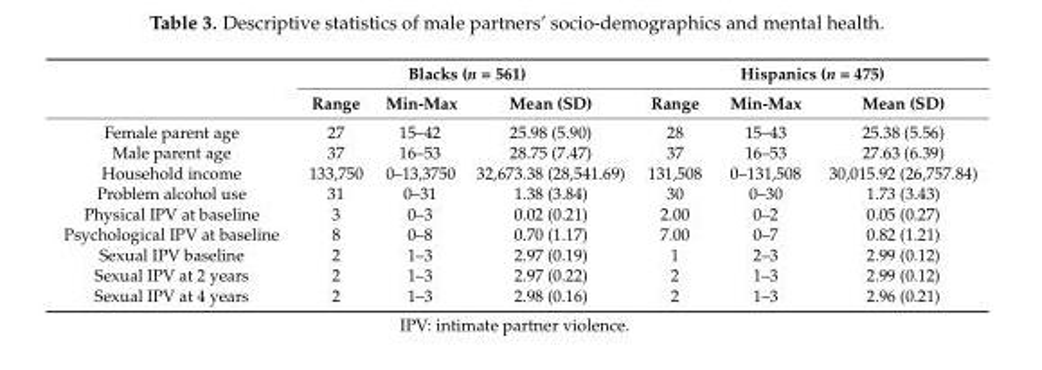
<table><thead><tr><td rowspan="2"></td><td colspan="3">Blacks (n = 561)</td><td colspan="3">Hispanics (n = 475)</td></tr><tr><td>Range</td><td>Min-Max</td><td>Mean (SD)</td><td>Range</td><td>Min-Max</td><td>Mean (SD)</td></tr></thead><tbody><tr><td>Female parent age</td><td>27</td><td>15–42</td><td>25.98 (5.90)</td><td>28</td><td>15–43</td><td>25.38 (5.56)</td></tr><tr><td>Male parent age</td><td>37</td><td>16–53</td><td>28.75 (7.47)</td><td>37</td><td>16–53</td><td>27.63 (6.39)</td></tr><tr><td>Household income</td><td>133,750</td><td>0–13,3750</td><td>32,673.38 (28,541.69)</td><td>131,508</td><td>0–131,508</td><td>30,015.92 (26,757.84)</td></tr><tr><td>Problem alcohol use</td><td>31</td><td>0–31</td><td>1.38 (3.84)</td><td>30</td><td>0–30</td><td>1.73 (3.43)</td></tr><tr><td>Physical IPV at baseline</td><td>3</td><td>0–3</td><td>0.02 (0.21)</td><td>2.00</td><td>0–2</td><td>0.05 (0.27)</td></tr><tr><td>Psychological IPV at baseline</td><td>8</td><td>0–8</td><td>0.70 (1.17)</td><td>7.00</td><td>0–7</td><td>0.82 (1.21)</td></tr><tr><td>Sexual IPV baseline</td><td>2</td><td>1–3</td><td>2.97 (0.19)</td><td>1</td><td>2–3</td><td>2.99 (0.12)</td></tr><tr><td>Sexual IPV at 2 years</td><td>2</td><td>1–3</td><td>2.97 (0.22)</td><td>2</td><td>1–3</td><td>2.99 (0.12)</td></tr><tr><td>Sexual IPV at 4 years</td><td>2</td><td>1–3</td><td>2.98 (0.16)</td><td>2</td><td>1–3</td><td>2.96 (0.21)</td></tr></tbody></table>